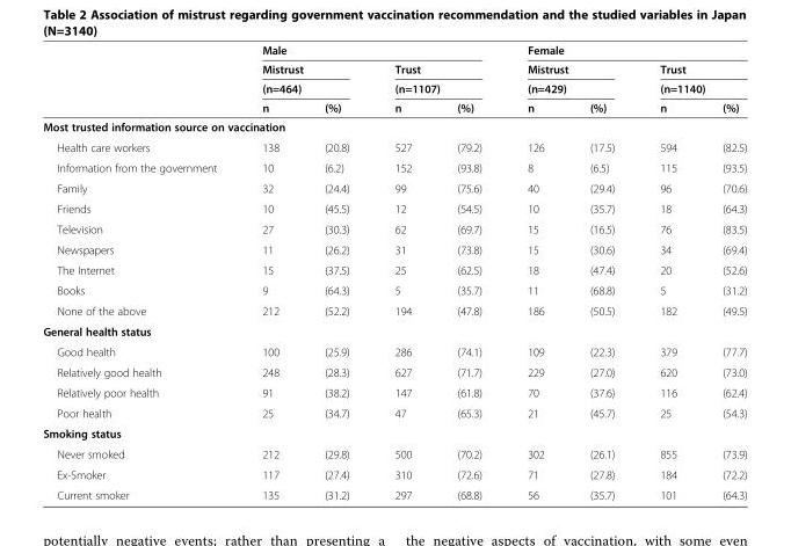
<table><thead><tr><td rowspan="4"></td><td colspan="4">Male</td><td colspan="4">Female</td></tr><tr><td rowspan="2" colspan="2">Mistrust (n=464)</td><td rowspan="2" colspan="2">Trust (n=1107)</td><td rowspan="2" colspan="2">Mistrust (n=429)</td><td rowspan="2" colspan="2">Trust (n=1140)</td></tr><tr></tr><tr><td>n</td><td>(%)</td><td>n</td><td>(%)</td><td>n</td><td>(%)</td><td>n</td><td>(%)</td></tr></thead><tbody><tr><td colspan="9">Most trusted information source on vaccination</td></tr><tr><td>Health care workers</td><td>138</td><td>(20.8)</td><td>527</td><td>(79.2)</td><td>126</td><td>(17.5)</td><td>594</td><td>(82.5)</td></tr><tr><td>Information from the government</td><td>10</td><td>(6.2)</td><td>152</td><td>(93.8)</td><td>8</td><td>(6.5)</td><td>115</td><td>(93.5)</td></tr><tr><td>Family</td><td>32</td><td>(24.4)</td><td>99</td><td>(75.6)</td><td>40</td><td>(29.4)</td><td>96</td><td>(70.6)</td></tr><tr><td>Friends</td><td>10</td><td>(45.5)</td><td>12</td><td>(54.5)</td><td>10</td><td>(35.7)</td><td>18</td><td>(64.3)</td></tr><tr><td>Television</td><td>27</td><td>(30.3)</td><td>62</td><td>(69.7)</td><td>15</td><td>(16.5)</td><td>76</td><td>(83.5)</td></tr><tr><td>Newspapers</td><td>11</td><td>(26.2)</td><td>31</td><td>(73.8)</td><td>15</td><td>(30.6)</td><td>34</td><td>(69.4)</td></tr><tr><td>The Internet</td><td>15</td><td>(37.5)</td><td>25</td><td>(62.5)</td><td>18</td><td>(47.4)</td><td>20</td><td>(52.6)</td></tr><tr><td>Books</td><td>9</td><td>(64.3)</td><td>5</td><td>(35.7)</td><td>11</td><td>(68.8)</td><td>5</td><td>(31.2)</td></tr><tr><td>None of the above</td><td>212</td><td>(52.2)</td><td>194</td><td>(47.8)</td><td>186</td><td>(50.5)</td><td>182</td><td>(49.5)</td></tr><tr><td colspan="9">General health status</td></tr><tr><td>Good health</td><td>100</td><td>(25.9)</td><td>286</td><td>(74.1)</td><td>109</td><td>(22.3)</td><td>379</td><td>(77.7)</td></tr><tr><td>Relatively good health</td><td>248</td><td>(28.3)</td><td>627</td><td>(71.7)</td><td>229</td><td>(27.0)</td><td>620</td><td>(73.0)</td></tr><tr><td>Relatively poor health</td><td>91</td><td>(38.2)</td><td>147</td><td>(61.8)</td><td>70</td><td>(37.6)</td><td>116</td><td>(62.4)</td></tr><tr><td>Poor health</td><td>25</td><td>(34.7)</td><td>47</td><td>(65.3)</td><td>21</td><td>(45.7)</td><td>25</td><td>(54.3)</td></tr><tr><td colspan="9">Smoking status</td></tr><tr><td>Never smoked</td><td>212</td><td>(29.8)</td><td>500</td><td>(70.2)</td><td>302</td><td>(26.1)</td><td>855</td><td>(73.9)</td></tr><tr><td>Ex-Smoker</td><td>117</td><td>(27.4)</td><td>310</td><td>(72.6)</td><td>71</td><td>(27.8)</td><td>184</td><td>(72.2)</td></tr><tr><td>Current smoker</td><td>135</td><td>(31.2)</td><td>297</td><td>(68.8)</td><td>56</td><td>(35.7)</td><td>101</td><td>(64.3)</td></tr></tbody></table>